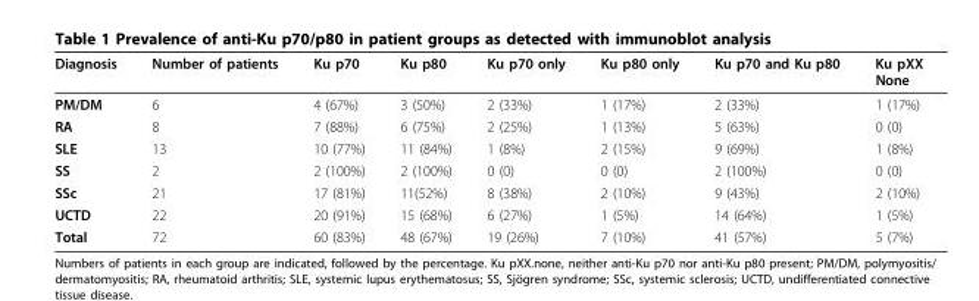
<table><thead><tr><td>Diagnosis</td><td>Number of patients</td><td>Ku p70</td><td>Ku p80</td><td>Ku p70 only</td><td>Ku p80 only</td><td>Ku p70 and Ku p80</td><td>Ku pXX None</td></tr></thead><tbody><tr><td>PM/DM</td><td>6</td><td>4 (67%)</td><td>3 (50%)</td><td>2 (33%)</td><td>1 (17%)</td><td>2 (33%)</td><td>1 (17%)</td></tr><tr><td>RA</td><td>8</td><td>7 (88%)</td><td>6 (75%)</td><td>2 (25%)</td><td>1 (13%)</td><td>5 (63%)</td><td>0 (0)</td></tr><tr><td>SLE</td><td>13</td><td>10 (77%)</td><td>11 (84%)</td><td>1 (8%)</td><td>2 (15%)</td><td>9 (69%)</td><td>1 (8%)</td></tr><tr><td>SS</td><td>2</td><td>2 (100%)</td><td>2 (100%)</td><td>0 (0)</td><td>0 (0)</td><td>2 (100%)</td><td>0 (0)</td></tr><tr><td>SSc</td><td>21</td><td>17 (81%)</td><td>11(52%)</td><td>8 (38%)</td><td>2 (10%)</td><td>9 (43%)</td><td>2 (10%)</td></tr><tr><td>UCTD</td><td>22</td><td>20 (91%)</td><td>15 (68%)</td><td>6 (27%)</td><td>1 (5%)</td><td>14 (64%)</td><td>1 (5%)</td></tr><tr><td>Total</td><td>72</td><td>60 (83%)</td><td>48 (67%)</td><td>19 (26%)</td><td>7 (10%)</td><td>41 (57%)</td><td>5 (7%)</td></tr></tbody></table>